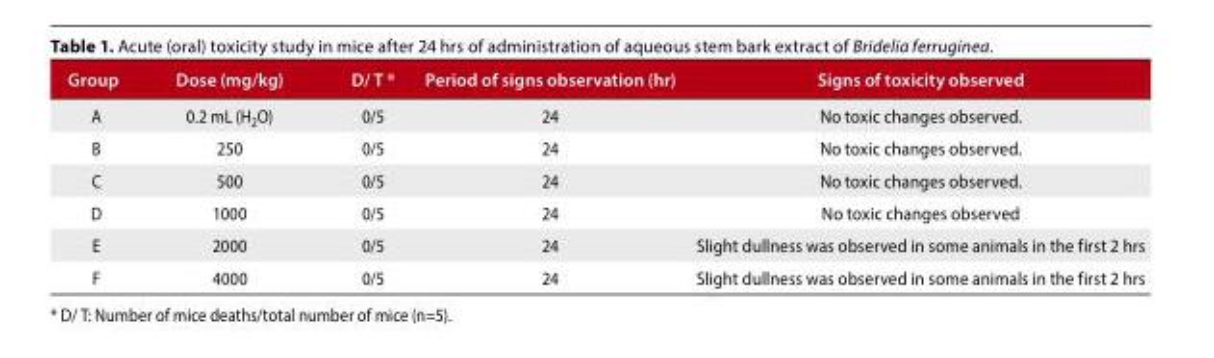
<table><thead><tr><td>Group</td><td>Dose (mg/kg)</td><td>D/ T *</td><td>Period of signs observation (hr)</td><td>Signs of toxicity observed</td></tr></thead><tbody><tr><td>A</td><td>0.2 mL (H<sub>2</sub>O)</td><td>0/5</td><td>24</td><td>No toxic changes observed.</td></tr><tr><td>B</td><td>250</td><td>0/5</td><td>24</td><td>No toxic changes observed.</td></tr><tr><td>C</td><td>500</td><td>0/5</td><td>24</td><td>No toxic changes observed.</td></tr><tr><td>D</td><td>1000</td><td>0/5</td><td>24</td><td>No toxic changes observed</td></tr><tr><td>E</td><td>2000</td><td>0/5</td><td>24</td><td>Slight dullness was observed in some animals in the first 2 hrs</td></tr><tr><td>F</td><td>4000</td><td>0/5</td><td>24</td><td>Slight dullness was observed in some animals in the first 2 hrs</td></tr></tbody></table>